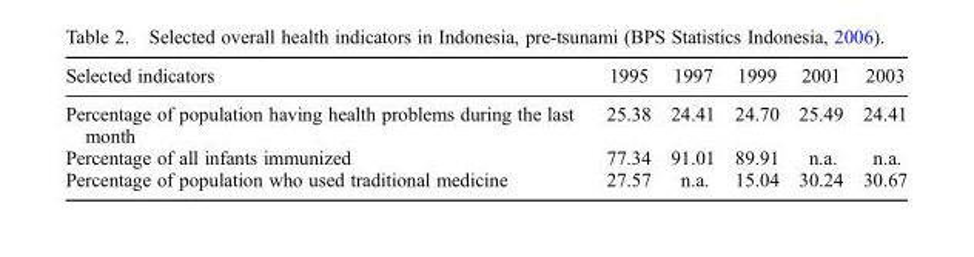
<table><thead><tr><td>Selected indicators</td><td>1995</td><td>1997</td><td>1999</td><td>2001</td><td>2003</td></tr></thead><tbody><tr><td>Percentage of population having health problems during the last month</td><td>25.38</td><td>24.41</td><td>24.70</td><td>25.49</td><td>24.41</td></tr><tr><td>Percentage of all infants immunized</td><td>77.34</td><td>91.01</td><td>89.91</td><td>n.a.</td><td>n.a.</td></tr><tr><td>Percentage of population who used traditional medicine</td><td>27.57</td><td>n.a.</td><td>15.04</td><td>30.24</td><td>30.67</td></tr></tbody></table>